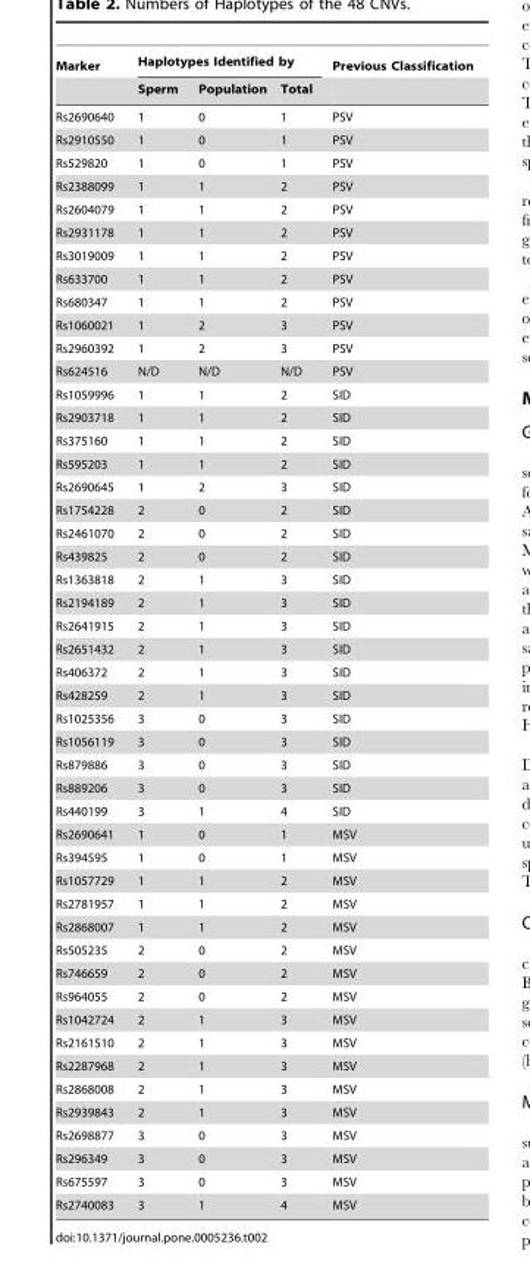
<table><thead><tr><td rowspan="2">Marker</td><td colspan="3">Haplotypes Identified by</td><td rowspan="2">Previous Classification</td></tr><tr><td>Sperm</td><td>Population</td><td>Total</td></tr></thead><tbody><tr><td>Rs2690640</td><td>1</td><td>0</td><td>1</td><td>PSV</td></tr><tr><td>Rs2910550</td><td>1</td><td>0</td><td>1</td><td>PSV</td></tr><tr><td>Rs529820</td><td>1</td><td>0</td><td>1</td><td>PSV</td></tr><tr><td>Rs2388099</td><td>1</td><td>1</td><td>2</td><td>PSV</td></tr><tr><td>Rs2604079</td><td>1</td><td>1</td><td>2</td><td>PSV</td></tr><tr><td>Rs2931178</td><td>1</td><td>1</td><td>2</td><td>PSV</td></tr><tr><td>Rs3019009</td><td>1</td><td>1</td><td>2</td><td>PSV</td></tr><tr><td>Rs633700</td><td>1</td><td>1</td><td>2</td><td>PSV</td></tr><tr><td>Rs680347</td><td>1</td><td>1</td><td>2</td><td>PSV</td></tr><tr><td>Rs1060021</td><td>1</td><td>2</td><td>3</td><td>PSV</td></tr><tr><td>Rs2960392</td><td>1</td><td>2</td><td>3</td><td>PSV</td></tr><tr><td>Rs624516</td><td>N/D</td><td>N/D</td><td>N/D</td><td>PSV</td></tr><tr><td>Rs1059996</td><td>1</td><td>1</td><td>2</td><td>SID</td></tr><tr><td>Rs2903718</td><td>1</td><td>1</td><td>2</td><td>SID</td></tr><tr><td>Rs375160</td><td>1</td><td>1</td><td>2</td><td>SID</td></tr><tr><td>Rs595203</td><td>1</td><td>1</td><td>2</td><td>SID</td></tr><tr><td>Rs2690645</td><td>1</td><td>2</td><td>3</td><td>SID</td></tr><tr><td>Rs1754228</td><td>2</td><td>0</td><td>2</td><td>SID</td></tr><tr><td>Rs2461070</td><td>2</td><td>0</td><td>2</td><td>SID</td></tr><tr><td>Rs439825</td><td>2</td><td>0</td><td>2</td><td>SID</td></tr><tr><td>Rs1363818</td><td>2</td><td>1</td><td>3</td><td>SID</td></tr><tr><td>Rs2194189</td><td>2</td><td>1</td><td>3</td><td>SID</td></tr><tr><td>Rs2641915</td><td>2</td><td>1</td><td>3</td><td>SID</td></tr><tr><td>Rs2651432</td><td>2</td><td>1</td><td>3</td><td>SID</td></tr><tr><td>Rs406372</td><td>2</td><td>1</td><td>3</td><td>SID</td></tr><tr><td>Rs428259</td><td>2</td><td>1</td><td>3</td><td>SID</td></tr><tr><td>Rs1025356</td><td>3</td><td>0</td><td>3</td><td>SID</td></tr><tr><td>Rs1056119</td><td>3</td><td>0</td><td>3</td><td>SID</td></tr><tr><td>Rs879886</td><td>3</td><td>0</td><td>3</td><td>SID</td></tr><tr><td>Rs889206</td><td>3</td><td>0</td><td>3</td><td>SID</td></tr><tr><td>Rs440199</td><td>3</td><td>1</td><td>4</td><td>SID</td></tr><tr><td>Rs2690641</td><td>1</td><td>0</td><td>1</td><td>MSV</td></tr><tr><td>Rs394595</td><td>1</td><td>0</td><td>1</td><td>MSV</td></tr><tr><td>Rs1057729</td><td>1</td><td>1</td><td>2</td><td>MSV</td></tr><tr><td>Rs2781957</td><td>1</td><td>1</td><td>2</td><td>MSV</td></tr><tr><td>Rs2868007</td><td>1</td><td>1</td><td>2</td><td>MSV</td></tr><tr><td>Rs505235</td><td>2</td><td>0</td><td>2</td><td>MSV</td></tr><tr><td>Rs746659</td><td>2</td><td>0</td><td>2</td><td>MSV</td></tr><tr><td>Rs964055</td><td>2</td><td>0</td><td>2</td><td>MSV</td></tr><tr><td>Rs1042724</td><td>2</td><td>1</td><td>3</td><td>MSV</td></tr><tr><td>Rs2161510</td><td>2</td><td>1</td><td>3</td><td>MSV</td></tr><tr><td>Rs2287968</td><td>2</td><td>1</td><td>3</td><td>MSV</td></tr><tr><td>Rs2868008</td><td>2</td><td>1</td><td>3</td><td>MSV</td></tr><tr><td>Rs2939843</td><td>2</td><td>1</td><td>3</td><td>MSV</td></tr><tr><td>Rs2698877</td><td>3</td><td>0</td><td>3</td><td>MSV</td></tr><tr><td>Rs296349</td><td>3</td><td>0</td><td>3</td><td>MSV</td></tr><tr><td>Rs675597</td><td>3</td><td>0</td><td>3</td><td>MSV</td></tr><tr><td>Rs2740083</td><td>3</td><td>1</td><td>4</td><td>MSV</td></tr></tbody></table>